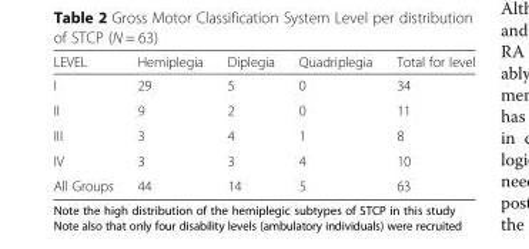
<table><thead><tr><td>LEVEL</td><td>Hemiplegia</td><td>Diplegia</td><td>Quadriplegia</td><td>Total for level</td></tr></thead><tbody><tr><td>I</td><td>29</td><td>5</td><td>0</td><td>34</td></tr><tr><td>II</td><td>9</td><td>2</td><td>0</td><td>11</td></tr><tr><td>III</td><td>3</td><td>4</td><td>1</td><td>8</td></tr><tr><td>IV</td><td>3</td><td>3</td><td>4</td><td>10</td></tr><tr><td>All Groups</td><td>44</td><td>14</td><td>5</td><td>63</td></tr></tbody></table>